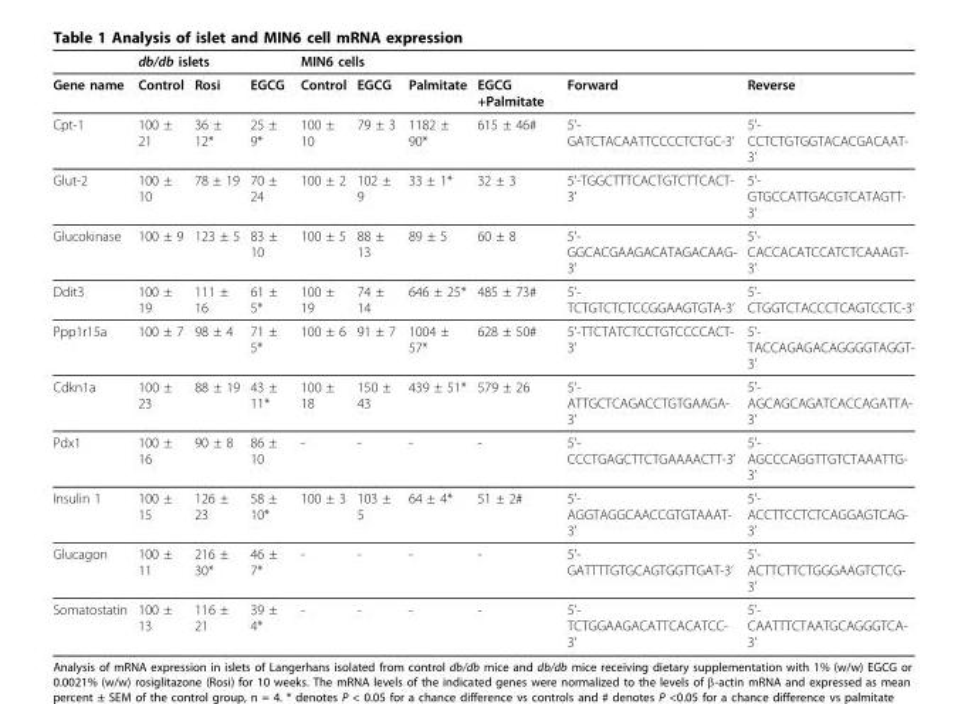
<table><thead><tr><td rowspan="2">Gene name</td><td colspan="3">db/db islets</td><td colspan="4">MIN6 cells</td><td rowspan="2">Forward</td><td rowspan="2">Reverse</td></tr><tr><td>Control</td><td>Rosi</td><td>EGCG</td><td>Control</td><td>EGCG</td><td>Palmitate</td><td>EGCG +Palmitate</td></tr></thead><tbody><tr><td>Cpt-1</td><td>100 ± 21</td><td>36 ± 12*</td><td>25 ± 9*</td><td>100 ± 10</td><td>79 ± 3</td><td>1182 ± 90*</td><td>615 ± 46#</td><td>5’- GATCTACAATTCCCCTCTGC-3’</td><td>5’- CCTCTGTGGTACACGACAAT- 3’</td></tr><tr><td>Glut-2</td><td>100 ± 10</td><td>78 ± 19</td><td>70 ± 24</td><td>100 ± 2</td><td>102 ± 9</td><td>33 ± 1*</td><td>32 ± 3</td><td>5’-TGGCTTTCACTGTCTTCACT- 3’</td><td>5’- GTGCCATTGACGTCATAGTT- 3’</td></tr><tr><td>Glucokinase</td><td>100 ± 9</td><td>123 ± 5</td><td>83 ± 10</td><td>100 ± 5</td><td>88 ± 13</td><td>89 ± 5</td><td>60 ± 8</td><td>5’- GGCACGAAGACATAGACAAG- 3’</td><td>5’- CACCACATCCATCTCAAAGT- 3’</td></tr><tr><td>Ddit3</td><td>100 ± 19</td><td>111 ± 16</td><td>61 ± 5*</td><td>100 ± 19</td><td>74 ± 14</td><td>646 ± 25*</td><td>485 ± 73#</td><td>5’- TCTGTCTCTCCGGAAGTGTA-3’</td><td>5’- CTGGTCTACCCTCAGTCCTC-3’</td></tr><tr><td>Ppp1r15a</td><td>100 ± 7</td><td>98 ± 4</td><td>71 ± 5*</td><td>100 ± 6</td><td>91 ± 7</td><td>1004 ± 57*</td><td>628 ± 50#</td><td>5’-TTCTATCTCCTGTCCCCACT- 3’</td><td>5’- TACCAGAGACAGGGGTAGGT- 3’</td></tr><tr><td>Cdkn1a</td><td>100 ± 23</td><td>88 ± 19</td><td>43 ± 11*</td><td>100 ± 18</td><td>150 ± 43</td><td>439 ± 51*</td><td>579 ± 26</td><td>5’- ATTGCTCAGACCTGTGAAGA- 3’</td><td>5’- AGCAGCAGATCACCAGATTA- 3’</td></tr><tr><td>Pdx1</td><td>100 ± 16</td><td>90 ± 8</td><td>86 ± 10</td><td>-</td><td>-</td><td>-</td><td>-</td><td>5’- CCCTGAGCTTCTGAAAACTT-3’</td><td>5’- AGCCCAGGTTGTCTAAATTG- 3’</td></tr><tr><td>Insulin 1</td><td>100 ± 15</td><td>126 ± 23</td><td>58 ± 10*</td><td>100 ± 3</td><td>103 ± 5</td><td>64 ± 4*</td><td>51 ± 2#</td><td>5’- AGGTAGGCAACCGTGTAAAT- 3’</td><td>5’- ACCTTCCTCTCAGGAGTCAG- 3’</td></tr><tr><td>Glucagon</td><td>100 ± 11</td><td>216 ± 30*</td><td>46 ± 7*</td><td>-</td><td>-</td><td>-</td><td>-</td><td>5’- GATTTTGTGCAGTGGTTGAT-3’</td><td>5’- ACTTCTTCTGGGAAGTCTCG- 3’</td></tr><tr><td>Somatostatin</td><td>100 ± 13</td><td>116 ± 21</td><td>39 ± 4*</td><td>-</td><td>-</td><td>-</td><td>-</td><td>5’- TCTGGAAGACATTCACATCC- 3’</td><td>5’- CAATTTCTAATGCAGGGTCA- 3’</td></tr></tbody></table>